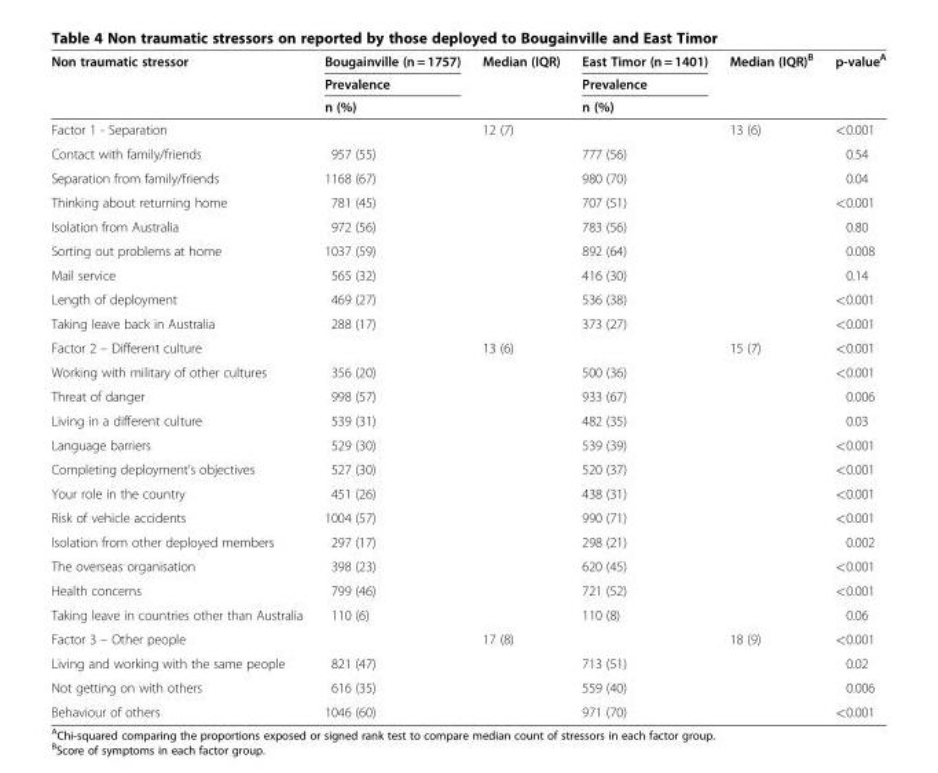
<table><thead><tr><td rowspan="3">Non traumatic stressor</td><td rowspan="3">Bougainville (n = 1757) Prevalence n (%)</td><td rowspan="3">Median (IQR)</td><td rowspan="3">East Timor (n = 1401) Prevalence n (%)</td><td rowspan="3">Median (IQR)<sup>B</sup></td><td rowspan="3">p-value<sup>A</sup></td></tr><tr></tr><tr></tr></thead><tbody><tr><td>Factor 1 - Separation</td><td></td><td>12 (7)</td><td></td><td>13 (6)</td><td>&lt;0.001</td></tr><tr><td>Contact with family/friends</td><td>957 (55)</td><td></td><td>777 (56)</td><td></td><td>0.54</td></tr><tr><td>Separation from family/friends</td><td>1168 (67)</td><td></td><td>980 (70)</td><td></td><td>0.04</td></tr><tr><td>Thinking about returning home</td><td>781 (45)</td><td></td><td>707 (51)</td><td></td><td>&lt;0.001</td></tr><tr><td>Isolation from Australia</td><td>972 (56)</td><td></td><td>783 (56)</td><td></td><td>0.80</td></tr><tr><td>Sorting out problems at home</td><td>1037 (59)</td><td></td><td>892 (64)</td><td></td><td>0.008</td></tr><tr><td>Mail service</td><td>565 (32)</td><td></td><td>416 (30)</td><td></td><td>0.14</td></tr><tr><td>Length of deployment</td><td>469 (27)</td><td></td><td>536 (38)</td><td></td><td>&lt;0.001</td></tr><tr><td>Taking leave back in Australia</td><td>288 (17)</td><td></td><td>373 (27)</td><td></td><td>&lt;0.001</td></tr><tr><td>Factor 2 – Different culture</td><td></td><td>13 (6)</td><td></td><td>15 (7)</td><td>&lt;0.001</td></tr><tr><td>Working with military of other cultures</td><td>356 (20)</td><td></td><td>500 (36)</td><td></td><td>&lt;0.001</td></tr><tr><td>Threat of danger</td><td>998 (57)</td><td></td><td>933 (67)</td><td></td><td>0.006</td></tr><tr><td>Living in a different culture</td><td>539 (31)</td><td></td><td>482 (35)</td><td></td><td>0.03</td></tr><tr><td>Language barriers</td><td>529 (30)</td><td></td><td>539 (39)</td><td></td><td>&lt;0.001</td></tr><tr><td>Completing deployment’s objectives</td><td>527 (30)</td><td></td><td>520 (37)</td><td></td><td>&lt;0.001</td></tr><tr><td>Your role in the country</td><td>451 (26)</td><td></td><td>438 (31)</td><td></td><td>&lt;0.001</td></tr><tr><td>Risk of vehicle accidents</td><td>1004 (57)</td><td></td><td>990 (71)</td><td></td><td>&lt;0.001</td></tr><tr><td>Isolation from other deployed members</td><td>297 (17)</td><td></td><td>298 (21)</td><td></td><td>0.002</td></tr><tr><td>The overseas organisation</td><td>398 (23)</td><td></td><td>620 (45)</td><td></td><td>&lt;0.001</td></tr><tr><td>Health concerns</td><td>799 (46)</td><td></td><td>721 (52)</td><td></td><td>&lt;0.001</td></tr><tr><td>Taking leave in countries other than Australia</td><td>110 (6)</td><td></td><td>110 (8)</td><td></td><td>0.06</td></tr><tr><td>Factor 3 – Other people</td><td></td><td>17 (8)</td><td></td><td>18 (9)</td><td>&lt;0.001</td></tr><tr><td>Living and working with the same people</td><td>821 (47)</td><td></td><td>713 (51)</td><td></td><td>0.02</td></tr><tr><td>Not getting on with others</td><td>616 (35)</td><td></td><td>559 (40)</td><td></td><td>0.006</td></tr><tr><td>Behaviour of others</td><td>1046 (60)</td><td></td><td>971 (70)</td><td></td><td>&lt;0.001</td></tr></tbody></table>